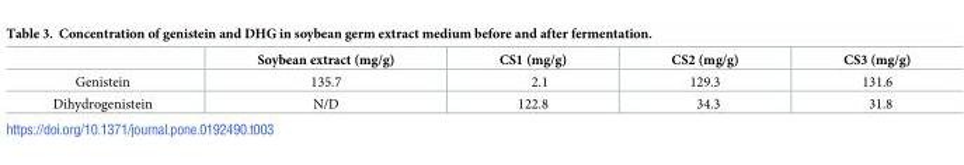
<table><thead><tr><td></td><td>Soybean extract (mg/g)</td><td>CS1 (mg/g)</td><td>CS2 (mg/g)</td><td>CS3 (mg/g)</td></tr></thead><tbody><tr><td>Genistein</td><td>135.7</td><td>2.1</td><td>129.3</td><td>131.6</td></tr><tr><td>Dihydrogenistein</td><td>N/D</td><td>122.8</td><td>34.3</td><td>31.8</td></tr></tbody></table>